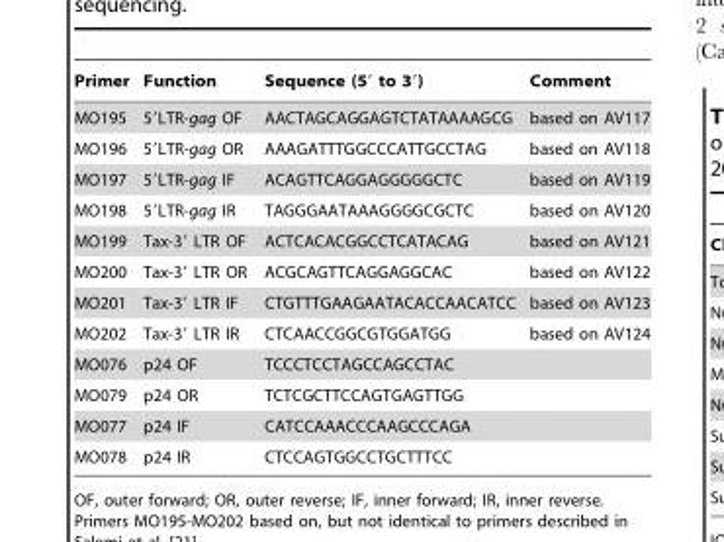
<table><thead><tr><td>Primer</td><td>Function</td><td>Sequence (5′ to 3′)</td><td>Comment</td></tr></thead><tbody><tr><td>MO195</td><td>5′LTR-gag OF</td><td>AACTAGCAGGAGTCTATAAAAGCG</td><td>based on AV117</td></tr><tr><td>MO196</td><td>5′LTR-gag OR</td><td>AAAGATTTGGCCCATTGCCTAG</td><td>based on AV118</td></tr><tr><td>MO197</td><td>5′LTR-gag IF</td><td>ACAGTTCAGGAGGGGGCTC</td><td>based on AV119</td></tr><tr><td>MO198</td><td>5′LTR-gag IR</td><td>TAGGGAATAAAGGGGCGCTC</td><td>based on AV120</td></tr><tr><td>MO199</td><td>Tax-3′ LTR OF</td><td>ACTCACACGGCCTCATACAG</td><td>based on AV121</td></tr><tr><td>MO200</td><td>Tax-3′ LTR OR</td><td>ACGCAGTTCAGGAGGCAC</td><td>based on AV122</td></tr><tr><td>MO201</td><td>Tax-3′ LTR IF</td><td>CTGTTTGAAGAATACACCAACATCC</td><td>based on AV123</td></tr><tr><td>MO202</td><td>Tax-3′ LTR IR</td><td>CTCAACCGGCGTGGATGG</td><td>based on AV124</td></tr><tr><td>MO076</td><td>p24 OF</td><td>TCCCTCCTAGCCAGCCTAC</td><td></td></tr><tr><td>MO079</td><td>p24 OR</td><td>TCTCGCTTCCAGTGAGTTGG</td><td></td></tr><tr><td>MO077</td><td>p24 IF</td><td>CATCCAAACCCAAGCCCAGA</td><td></td></tr><tr><td>MO078</td><td>p24 IR</td><td>CTCCAGTGGCCTGCTTTCC</td><td></td></tr></tbody></table>